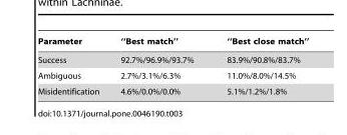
<table><thead><tr><td>Parameter</td><td>‘‘Best match’’</td><td>‘‘Best close match’’</td></tr></thead><tbody><tr><td>Success</td><td>92.7%/96.9%/93.7%</td><td>83.9%/90.8%/83.7%</td></tr><tr><td>Ambiguous</td><td>2.7%/3.1%/6.3%</td><td>11.0%/8.0%/14.5%</td></tr><tr><td>Misidentification</td><td>4.6%/0.0%/0.0%</td><td>5.1%/1.2%/1.8%</td></tr></tbody></table>